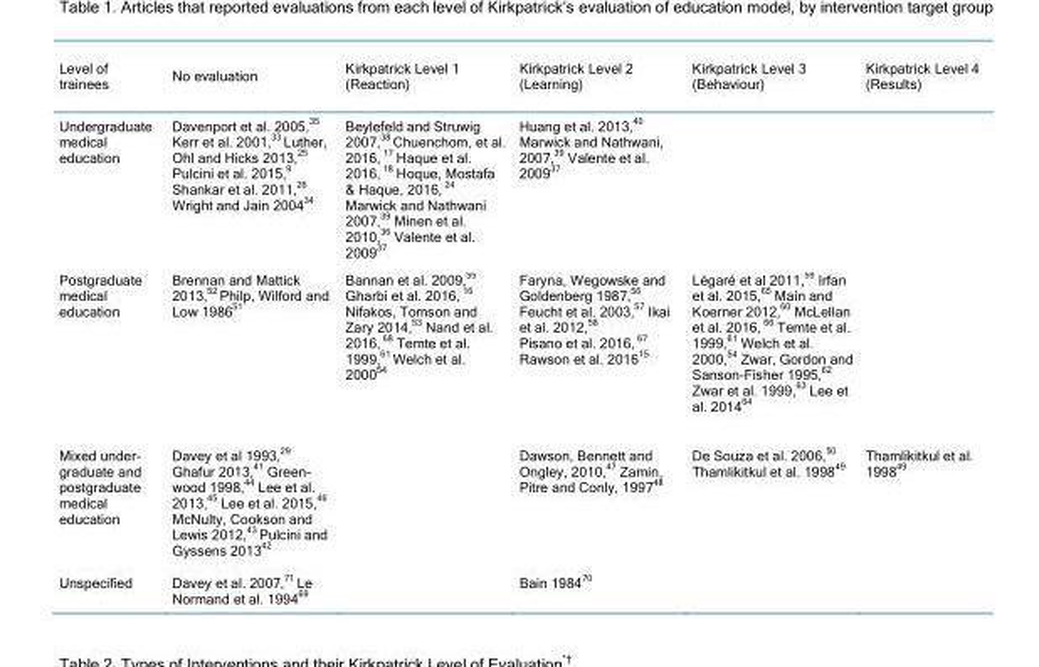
<table><thead><tr><td>Level of trainees</td><td>No evaluation</td><td>Kirkpatrick Level 1 (Reaction)</td><td>Kirkpatrick Level 2 (Learning)</td><td>Kirkpatrick Level 3 (Behaviour)</td><td>Kirkpatrick Level 4 (Results)</td></tr></thead><tbody><tr><td>Undergraduate medical education</td><td>Davenport et al. 2005,<sup>35</sup> Kerr et al. 2001,<sup>33</sup> Luther, Ohl and Hicks 2013,<sup>25</sup> Pulcini et al. 2015,<sup>9</sup> Shankar et al. 2011,<sup>26</sup> Wright and Jain 2004<sup>34</sup></td><td>Beylefeld and Struwig 2007,<sup>38</sup> Chuenchom, et al. 2016, <sup>17</sup> Haque et al. 2016, <sup>18</sup> Hoque, Mostafa &amp; Haque, 2016, <sup>24</sup> Marwick and Nathwani 2007,<sup>39</sup> Minen et al. 2010,<sup>36</sup> Valente et al. 2009<sup>37</sup></td><td>Huang et al. 2013,<sup>40</sup> Marwick and Nathwani, 2007,<sup>39</sup> Valente et al. 2009<sup>37</sup></td><td></td><td></td></tr><tr><td>Postgraduate medical education</td><td>Brennan and Mattick 2013,<sup>52</sup> Philp, Wilford and Low 1986<sup>51</sup></td><td>Bannan et al. 2009,<sup>55</sup> Gharbi et al. 2016, <sup>16</sup> Nifakos, Tomson and Zary 2014,<sup>53</sup> Nand et al. 2016, <sup>68</sup> Temte et al. 1999,<sup>61</sup> Welch et al. 2000<sup>54</sup></td><td>Faryna, Wegowske and Goldenberg 1987,<sup>56</sup> Feucht et al. 2003,<sup>57</sup> Ikai et al. 2012,<sup>58</sup> Pisano et al. 2016, <sup>67</sup> Rawson et al. 2016<sup>15</sup></td><td>Légaré et al 2011,<sup>59</sup> Irfan et al. 2015,<sup>65</sup> Main and Koerner 2012,<sup>60</sup> McLellan et al. 2016, <sup>66</sup> Temte et al. 1999,<sup>61</sup> Welch et al. 2000,<sup>54</sup> Zwar, Gordon and Sanson-Fisher 1995,<sup>62</sup> Zwar et al. 1999,<sup>63</sup> Lee et al. 2014<sup>64</sup></td><td></td></tr><tr><td>Mixed under- graduate and postgraduate medical education</td><td>Davey et al 1993,29 Ghafur 2013,41 Green- wood 1998,44 Lee et al. 2013,45 Lee et al. 2015,46 McNulty, Cookson and Lewis 2012,43 Pulcini and Gyssens 201342</td><td></td><td>Dawson, Bennett and Ongley, 2010,<sup>47</sup> Zamin, Pitre and Conly, 1997<sup>48</sup></td><td>De Souza et al. 2006,<sup>50</sup> Thamlikitkul et al. 1998<sup>49</sup></td><td>Thamlikitkul et al. 1998<sup>49</sup></td></tr><tr><td>Unspecified</td><td>Davey et al. 2007,<sup>71</sup> Le Normand et al. 1994<sup>69</sup></td><td></td><td>Bain 1984<sup>70</sup></td><td></td><td></td></tr></tbody></table>